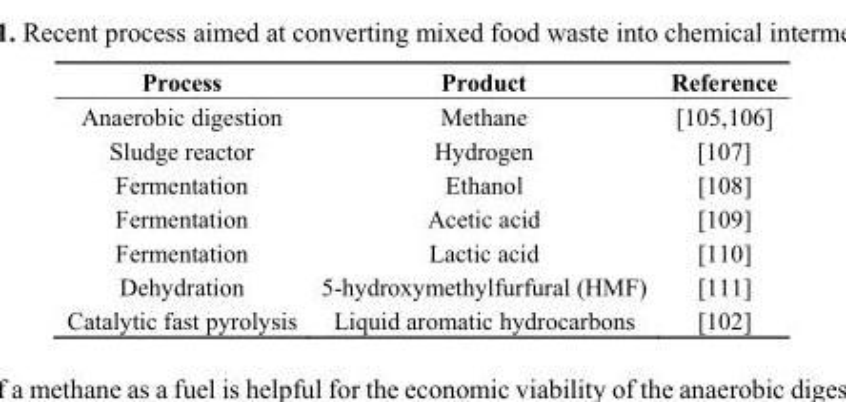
<table><thead><tr><td>Process</td><td>Product</td><td>Reference</td></tr></thead><tbody><tr><td>Anaerobic digestion</td><td>Methane</td><td>[105,106]</td></tr><tr><td>Sludge reactor</td><td>Hydrogen</td><td>[107]</td></tr><tr><td>Fermentation</td><td>Ethanol</td><td>[108]</td></tr><tr><td>Fermentation</td><td>Acetic acid</td><td>[109]</td></tr><tr><td>Fermentation</td><td>Lactic acid</td><td>[110]</td></tr><tr><td>Dehydration</td><td>5-hydroxymethylfurfural (HMF)</td><td>[111]</td></tr><tr><td>Catalytic fast pyrolysis</td><td>Liquid aromatic hydrocarbons</td><td>[102]</td></tr></tbody></table>